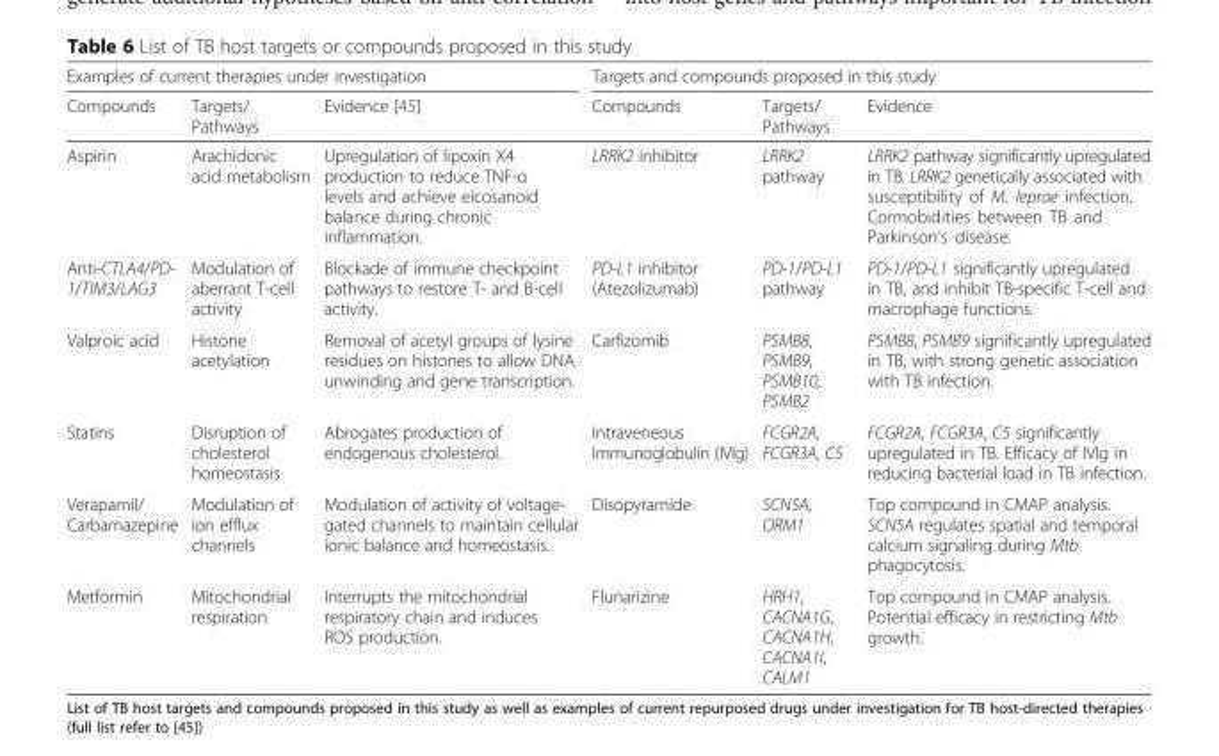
<table><thead><tr><td colspan="3">Examples of current therapies under investigation</td><td colspan="3">Targets and compounds proposed in this study</td></tr><tr><td>Compounds</td><td>Targets/ Pathways</td><td>Evidence [45]</td><td>Compounds</td><td>Targets/ Pathways</td><td>Evidence</td></tr></thead><tbody><tr><td>Aspirin</td><td>Arachidonic acid metabolism</td><td>Upregulation of lipoxin X4 production to reduce TNF-α levels and achieve eicosanoid balance during chronic inflammation.</td><td>LRRK2 inhibitor</td><td>LRRK2 pathway</td><td>LRRK2 pathway significantly upregulated in TB. LRRK2 genetically associated with susceptibility of M. leprae infection. Cormobidities between TB and Parkinson’s disease.</td></tr><tr><td>Anti-CTLA4/PD- 1/TIM3/LAG3</td><td>Modulation of aberrant T-cell activity</td><td>Blockade of immune checkpoint pathways to restore T- and B-cell activity.</td><td>PD-L1 inhibitor (Atezolizumab)</td><td>PD-1/PD-L1 pathway</td><td>PD-1/PD-L1 significantly upregulated in TB, and inhibit TB-specific T-cell and macrophage functions.</td></tr><tr><td>Valproic acid</td><td>Histone acetylation</td><td>Removal of acetyl groups of lysine residues on histones to allow DNA unwinding and gene transcription.</td><td>Carfizomib</td><td>PSMB8, PSMB9, PSMB10, PSMB2</td><td>PSMB8, PSMB9 significantly upregulated in TB, with strong genetic association with TB infection.</td></tr><tr><td>Statins</td><td>Disruption of cholesterol homeostasis</td><td>Abrogates production of endogenous cholesterol.</td><td>Intraveneous Immunoglobulin (IVIg)</td><td>FCGR2A, FCGR3A, C5</td><td>FCGR2A, FCGR3A, C5 significantly upregulated in TB. Efficacy of IVIg in reducing bacterial load in TB infection.</td></tr><tr><td>Verapamil/ Carbamazepine</td><td>Modulation of ion efflux channels</td><td>Modulation of activity of voltage- gated channels to maintain cellular ionic balance and homeostasis.</td><td>Disopyramide</td><td>SCN5A, ORM1</td><td>Top compound in CMAP analysis. SCN5A regulates spatial and temporal calcium signaling during Mtb phagocytosis.</td></tr><tr><td>Metformin</td><td>Mitochondrial respiration</td><td>Interrupts the mitochondrial respiratory chain and induces ROS production.</td><td>Flunarizine</td><td>HRH1, CACNA1G, CACNA1H, CACNA1I, CALM1</td><td>Top compound in CMAP analysis. Potential efficacy in restricting Mtb growth.</td></tr></tbody></table>